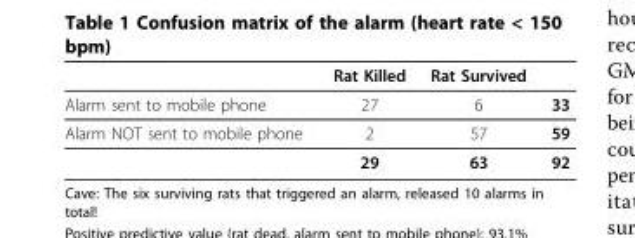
<table><thead><tr><td></td><td>Rat Killed</td><td>Rat Survived</td><td></td></tr></thead><tbody><tr><td>Alarm sent to mobile phone</td><td>27</td><td>6</td><td>33</td></tr><tr><td rowspan="2">Alarm NOT sent to mobile phone</td><td>2</td><td>57</td><td>59</td></tr><tr><td>29</td><td>63</td><td>92</td></tr></tbody></table>